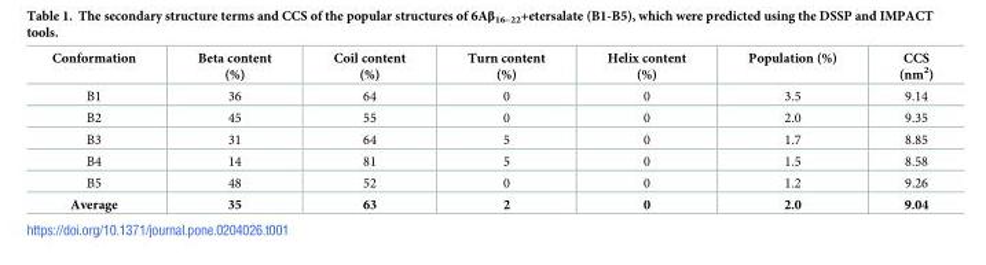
<table><thead><tr><td>Conformation</td><td>Beta content (%)</td><td>Coil content (%)</td><td>Turn content (%)</td><td>Helix content (%)</td><td>Population (%)</td><td>CCS (nm<sup>2</sup>)</td></tr></thead><tbody><tr><td>B1</td><td>36</td><td>64</td><td>0</td><td>0</td><td>3.5</td><td>9.14</td></tr><tr><td>B2</td><td>45</td><td>55</td><td>0</td><td>0</td><td>2.0</td><td>9.35</td></tr><tr><td>B3</td><td>31</td><td>64</td><td>5</td><td>0</td><td>1.7</td><td>8.85</td></tr><tr><td>B4</td><td>14</td><td>81</td><td>5</td><td>0</td><td>1.5</td><td>8.58</td></tr><tr><td>B5</td><td>48</td><td>52</td><td>0</td><td>0</td><td>1.2</td><td>9.26</td></tr><tr><td>Average</td><td>35</td><td>63</td><td>2</td><td>0</td><td>2.0</td><td>9.04</td></tr></tbody></table>